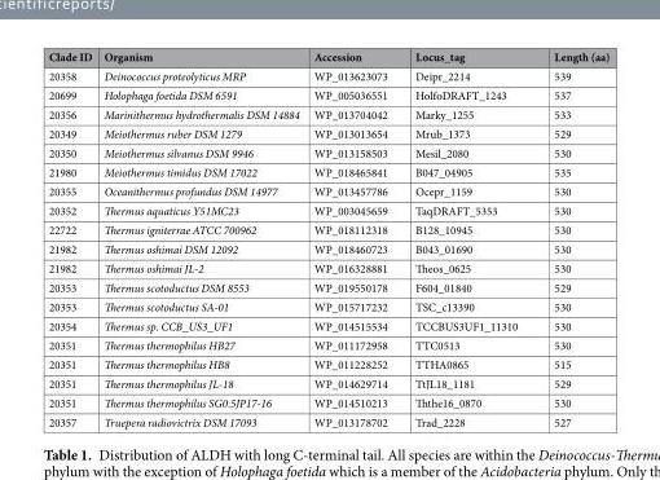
<table><thead><tr><td>Clade ID</td><td>Organism</td><td>Accession</td><td>Locus_tag</td><td>Length (aa)</td></tr></thead><tbody><tr><td>20358</td><td>Deinococcus proteolyticus MRP</td><td>WP_013623073</td><td>Deipr_2214</td><td>539</td></tr><tr><td>20699</td><td>Holophaga foetida DSM 6591</td><td>WP_005036551</td><td>HolfoDRAFT_1243</td><td>537</td></tr><tr><td>20356</td><td>Marinithermus hydrothermalis DSM 14884</td><td>WP_013704042</td><td>Marky_1255</td><td>533</td></tr><tr><td>20349</td><td>Meiothermus ruber DSM 1279</td><td>WP_013013654</td><td>Mrub_1373</td><td>529</td></tr><tr><td>20350</td><td>Meiothermus silvanus DSM 9946</td><td>WP_013158503</td><td>Mesil_2080</td><td>530</td></tr><tr><td>21980</td><td>Meiothermus timidus DSM 17022</td><td>WP_018465841</td><td>B047_04905</td><td>535</td></tr><tr><td>20355</td><td>Oceanithermus profundus DSM 14977</td><td>WP_013457786</td><td>Ocepr_1159</td><td>530</td></tr><tr><td>20352</td><td>Thermus aquaticus Y51MC23</td><td>WP_003045659</td><td>TaqDRAFT_5353</td><td>530</td></tr><tr><td>22722</td><td>Thermus igniterrae ATCC 700962</td><td>WP_018112318</td><td>B128_10945</td><td>530</td></tr><tr><td>21982</td><td>Thermus oshimai DSM 12092</td><td>WP_018460723</td><td>B043_01690</td><td>530</td></tr><tr><td>21982</td><td>Thermus oshimai JL-2</td><td>WP_016328881</td><td>Theos_0625</td><td>530</td></tr><tr><td>20353</td><td>Thermus scotoductus DSM 8553</td><td>WP_019550178</td><td>F604_01840</td><td>529</td></tr><tr><td>20353</td><td>Thermus scotoductus SA-01</td><td>WP_015717232</td><td>TSC_c13390</td><td>530</td></tr><tr><td>20354</td><td>Thermus sp. CCB_US3_UF1</td><td>WP_014515534</td><td>TCCBUS3UF1_11310</td><td>530</td></tr><tr><td>20351</td><td>Thermus thermophilus HB27</td><td>WP_011172958</td><td>TTC0513</td><td>530</td></tr><tr><td>20351</td><td>Thermus thermophilus HB8</td><td>WP_011228252</td><td>TTHA0865</td><td>515</td></tr><tr><td>20351</td><td>Thermus thermophilus JL-18</td><td>WP_014629714</td><td>TtJL18_1181</td><td>529</td></tr><tr><td>20351</td><td>Thermus thermophilus SG0.5JP17-16</td><td>WP_014510213</td><td>Ththe16_0870</td><td>530</td></tr><tr><td>20357</td><td>Truepera radiovictrix DSM 17093</td><td>WP_013178702</td><td>Trad_2228</td><td>527</td></tr></tbody></table>